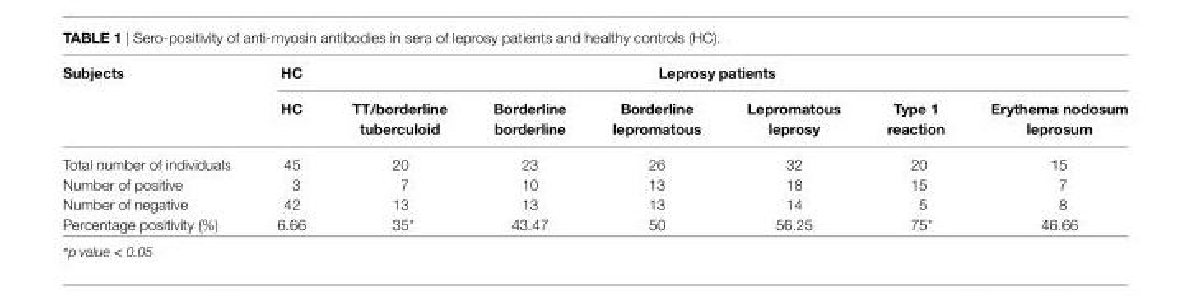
<table><thead><tr><td rowspan="2">subjects</td><td rowspan="2">hc hc</td><td colspan="6">leprosy patients</td></tr><tr><td>TT/borderline tuberculoid</td><td>Borderline borderline</td><td>Borderline lepromatous</td><td>lepromatous leprosy</td><td>Type 1 reaction</td><td>erythema nodosum leprosum</td></tr></thead><tbody><tr><td>Total number of individuals</td><td>45</td><td>20</td><td>23</td><td>26</td><td>32</td><td>20</td><td>15</td></tr><tr><td>Number of positive</td><td>3</td><td>7</td><td>10</td><td>13</td><td>18</td><td>15</td><td>7</td></tr><tr><td>Number of negative</td><td>42</td><td>13</td><td>13</td><td>13</td><td>14</td><td>5</td><td>8</td></tr><tr><td>Percentage positivity (%)</td><td>6.66</td><td>35*</td><td>43.47</td><td>50</td><td>56.25</td><td>75*</td><td>46.66</td></tr></tbody></table>